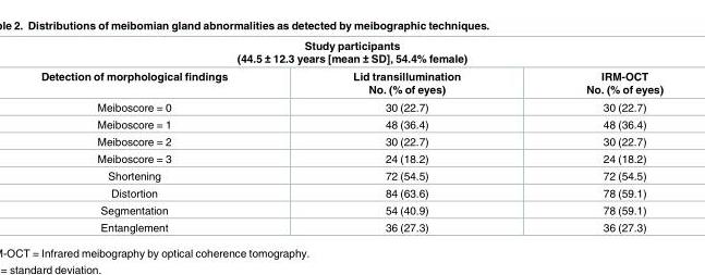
<table><thead><tr><td colspan="3">Study participants (44.5 ± 12.3 years [mean ± SD], 54.4% female)</td></tr><tr><td>Detection of morphological findings</td><td>Lid transillumination No. (% of eyes)</td><td>IRM-OCT No. (% of eyes)</td></tr></thead><tbody><tr><td>Meiboscore = 0</td><td>30 (22.7)</td><td>30 (22.7)</td></tr><tr><td>Meiboscore = 1</td><td>48 (36.4)</td><td>48 (36.4)</td></tr><tr><td>Meiboscore = 2</td><td>30 (22.7)</td><td>30 (22.7)</td></tr><tr><td>Meiboscore = 3</td><td>24 (18.2)</td><td>24 (18.2)</td></tr><tr><td>Shortening</td><td>72 (54.5)</td><td>72 (54.5)</td></tr><tr><td>Distortion</td><td>84 (63.6)</td><td>78 (59.1)</td></tr><tr><td>Segmentation</td><td>54 (40.9)</td><td>78 (59.1)</td></tr><tr><td>Entanglement</td><td>36 (27.3)</td><td>36 (27.3)</td></tr></tbody></table>